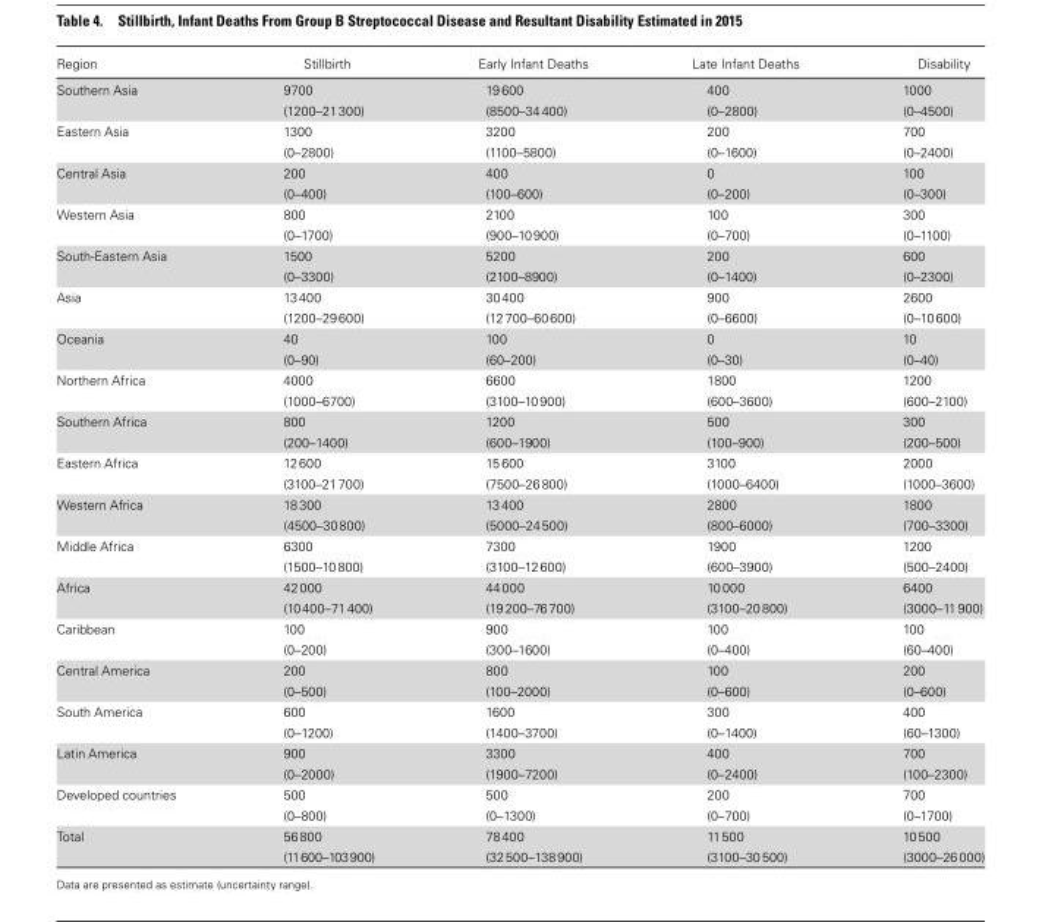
<table><thead><tr><td>Region</td><td>Stillbirth</td><td>Early Infant Deaths</td><td>Late Infant Deaths</td><td>Disability</td></tr></thead><tbody><tr><td rowspan="2">Southern Asia</td><td>9700</td><td>19 600</td><td>400</td><td>1000</td></tr><tr><td>(1200–21 300)</td><td>(8500–34 400)</td><td>(0–2800)</td><td>(0–4500)</td></tr><tr><td rowspan="2">Eastern Asia</td><td>1300</td><td>3200</td><td>200</td><td>700</td></tr><tr><td>(0–2800)</td><td>(1100–5800)</td><td>(0–1600)</td><td>(0–2400)</td></tr><tr><td rowspan="2">Central Asia</td><td>200</td><td>400</td><td>0</td><td>100</td></tr><tr><td>(0–400)</td><td>(100–600)</td><td>(0–200)</td><td>(0–300)</td></tr><tr><td rowspan="2">Western Asia</td><td>800</td><td>2100</td><td>100</td><td>300</td></tr><tr><td>(0–1700)</td><td>(900–10 900)</td><td>(0–700)</td><td>(0–1100)</td></tr><tr><td rowspan="2">South-Eastern Asia</td><td>1500</td><td>5200</td><td>200</td><td>600</td></tr><tr><td>(0–3300)</td><td>(2100–8900)</td><td>(0–1400)</td><td>(0–2300)</td></tr><tr><td rowspan="2">Asia</td><td>13 400</td><td>30 400</td><td>900</td><td>2600</td></tr><tr><td>(1200–29 600)</td><td>(12 700–60 600)</td><td>(0–6600)</td><td>(0–10 600)</td></tr><tr><td rowspan="2">Oceania</td><td>40</td><td>100</td><td>0</td><td>10</td></tr><tr><td>(0–90)</td><td>(60–200)</td><td>(0–30)</td><td>(0–40)</td></tr><tr><td rowspan="2">Northern Africa</td><td>4000</td><td>6600</td><td>1800</td><td>1200</td></tr><tr><td>(1000–6700)</td><td>(3100–10 900)</td><td>(600–3600)</td><td>(600–2100)</td></tr><tr><td rowspan="2">Southern Africa</td><td>800</td><td>1200</td><td>500</td><td>300</td></tr><tr><td>(200–1400)</td><td>(600–1900)</td><td>(100–900)</td><td>(200–500)</td></tr><tr><td rowspan="2">Eastern Africa</td><td>12 600</td><td>15 600</td><td>3100</td><td>2000</td></tr><tr><td>(3100–21 700)</td><td>(7500–26 800)</td><td>(1000–6400)</td><td>(1000–3600)</td></tr><tr><td rowspan="2">Western Africa</td><td>18 300</td><td>13 400</td><td>2800</td><td>1800</td></tr><tr><td>(4500–30 800)</td><td>(5000–24 500)</td><td>(800–6000)</td><td>(700–3300)</td></tr><tr><td rowspan="2">Middle Africa</td><td>6300</td><td>7300</td><td>1900</td><td>1200</td></tr><tr><td>(1500–10 800)</td><td>(3100–12 600)</td><td>(600–3900)</td><td>(500–2400)</td></tr><tr><td rowspan="2">Africa</td><td>42 000</td><td>44 000</td><td>10 000</td><td>6400</td></tr><tr><td>(10 400–71 400)</td><td>(19 200–76 700)</td><td>(3100–20 800)</td><td>(3000–11 900)</td></tr><tr><td rowspan="2">Caribbean</td><td>100</td><td>900</td><td>100</td><td>100</td></tr><tr><td>(0–200)</td><td>(300–1600)</td><td>(0–400)</td><td>(60–400)</td></tr><tr><td rowspan="2">Central America</td><td>200</td><td>800</td><td>100</td><td>200</td></tr><tr><td>(0–500)</td><td>(100–2000)</td><td>(0–600)</td><td>(0–600)</td></tr><tr><td rowspan="2">South America</td><td>600</td><td>1600</td><td>300</td><td>400</td></tr><tr><td>(0–1200)</td><td>(1400–3700)</td><td>(0–1400)</td><td>(60–1300)</td></tr><tr><td rowspan="2">Latin America</td><td>900</td><td>3300</td><td>400</td><td>700</td></tr><tr><td>(0–2000)</td><td>(1900–7200)</td><td>(0–2400)</td><td>(100–2300)</td></tr><tr><td rowspan="2">Developed countries</td><td>500</td><td>500</td><td>200</td><td>700</td></tr><tr><td>(0–800)</td><td>(0–1300)</td><td>(0–700)</td><td>(0–1700)</td></tr><tr><td rowspan="2">Total</td><td>56 800</td><td>78 400</td><td>11 500</td><td>10 500</td></tr><tr><td>(11 600–103 900)</td><td>(32 500–138 900)</td><td>(3100–30 500)</td><td>(3000–26 000)</td></tr></tbody></table>